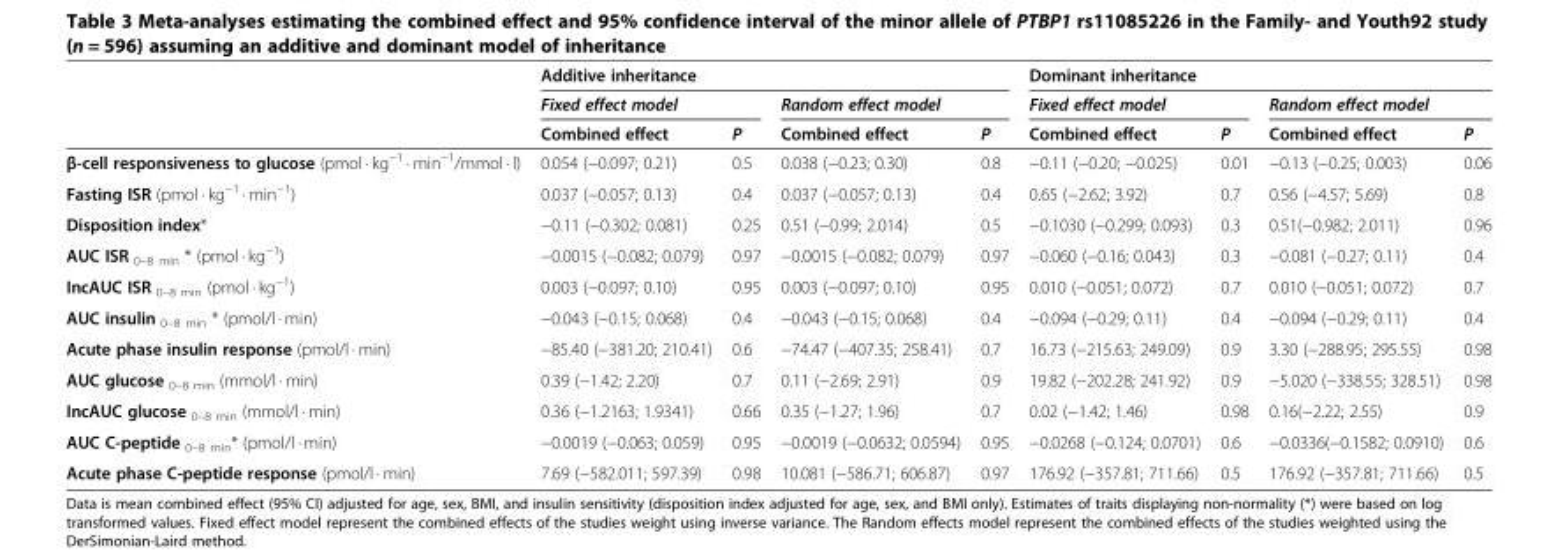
<table><thead><tr><td rowspan="3"></td><td colspan="4">Additive inheritance</td><td colspan="4">Dominant inheritance</td></tr><tr><td colspan="2">Fixed effect model</td><td colspan="2">Random effect model</td><td colspan="2">Fixed effect model</td><td colspan="2">Random effect model</td></tr><tr><td>Combined effect</td><td>P</td><td>Combined effect</td><td>P</td><td>Combined effect</td><td>P</td><td>Combined effect</td><td>P</td></tr></thead><tbody><tr><td>β-cell responsiveness to glucose (pmol · kg<sup>−1</sup> · min<sup>−1</sup>/mmol · l)</td><td>0.054 (−0.097; 0.21)</td><td>0.5</td><td>0.038 (−0.23; 0.30)</td><td>0.8</td><td>−0.11 (−0.20; −0.025)</td><td>0.01</td><td>−0.13 (−0.25; 0.003)</td><td>0.06</td></tr><tr><td>Fasting ISR (pmol · kg<sup>−1</sup> · min<sup>−1</sup>)</td><td>0.037 (−0.057; 0.13)</td><td>0.4</td><td>0.037 (−0.057; 0.13)</td><td>0.4</td><td>0.65 (−2.62; 3.92)</td><td>0.7</td><td>0.56 (−4.57; 5.69)</td><td>0.8</td></tr><tr><td>Disposition index*</td><td>−0.11 (−0.302; 0.081)</td><td>0.25</td><td>0.51 (−0.99; 2.014)</td><td>0.5</td><td>−0.1030 (−0.299; 0.093)</td><td>0.3</td><td>0.51(−0.982; 2.011)</td><td>0.96</td></tr><tr><td>AUC ISR <sub>0–8 min</sub> * (pmol · kg<sup>−1</sup>)</td><td>−0.0015 (−0.082; 0.079)</td><td>0.97</td><td>−0.0015 (−0.082; 0.079)</td><td>0.97</td><td>−0.060 (−0.16; 0.043)</td><td>0.3</td><td>−0.081 (−0.27; 0.11)</td><td>0.4</td></tr><tr><td>IncAUC ISR <sub>0–8 min</sub> (pmol · kg<sup>−1</sup>)</td><td>0.003 (−0.097; 0.10)</td><td>0.95</td><td>0.003 (−0.097; 0.10)</td><td>0.95</td><td>0.010 (−0.051; 0.072)</td><td>0.7</td><td>0.010 (−0.051; 0.072)</td><td>0.7</td></tr><tr><td>AUC insulin <sub>0–8 min</sub> * (pmol/l · min)</td><td>−0.043 (−0.15; 0.068)</td><td>0.4</td><td>−0.043 (−0.15; 0.068)</td><td>0.4</td><td>−0.094 (−0.29; 0.11)</td><td>0.4</td><td>−0.094 (−0.29; 0.11)</td><td>0.4</td></tr><tr><td>Acute phase insulin response (pmol/l · min)</td><td>−85.40 (−381.20; 210.41)</td><td>0.6</td><td>−74.47 (−407.35; 258.41)</td><td>0.7</td><td>16.73 (−215.63; 249.09)</td><td>0.9</td><td>3.30 (−288.95; 295.55)</td><td>0.98</td></tr><tr><td>AUC glucose <sub>0–8 min</sub> (mmol/l · min)</td><td>0.39 (−1.42; 2.20)</td><td>0.7</td><td>0.11 (−2.69; 2.91)</td><td>0.9</td><td>19.82 (−202.28; 241.92)</td><td>0.9</td><td>−5.020 (−338.55; 328.51)</td><td>0.98</td></tr><tr><td>IncAUC glucose <sub>0–8 min</sub> (mmol/l · min)</td><td>0.36 (−1.2163; 1.9341)</td><td>0.66</td><td>0.35 (−1.27; 1.96)</td><td>0.7</td><td>0.02 (−1.42; 1.46)</td><td>0.98</td><td>0.16(−2.22; 2.55)</td><td>0.9</td></tr><tr><td>AUC C-peptide <sub>0–8 min</sub>* (pmol/l · min)</td><td>−0.0019 (−0.063; 0.059)</td><td>0.95</td><td>−0.0019 (−0.0632; 0.0594)</td><td>0.95</td><td>−0.0268 (−0.124; 0.0701)</td><td>0.6</td><td>−0.0336(−0.1582; 0.0910)</td><td>0.6</td></tr><tr><td>Acute phase C-peptide response (pmol/l · min)</td><td>7.69 (−582.011; 597.39)</td><td>0.98</td><td>10.081 (−586.71; 606.87)</td><td>0.97</td><td>176.92 (−357.81; 711.66)</td><td>0.5</td><td>176.92 (−357.81; 711.66)</td><td>0.5</td></tr></tbody></table>